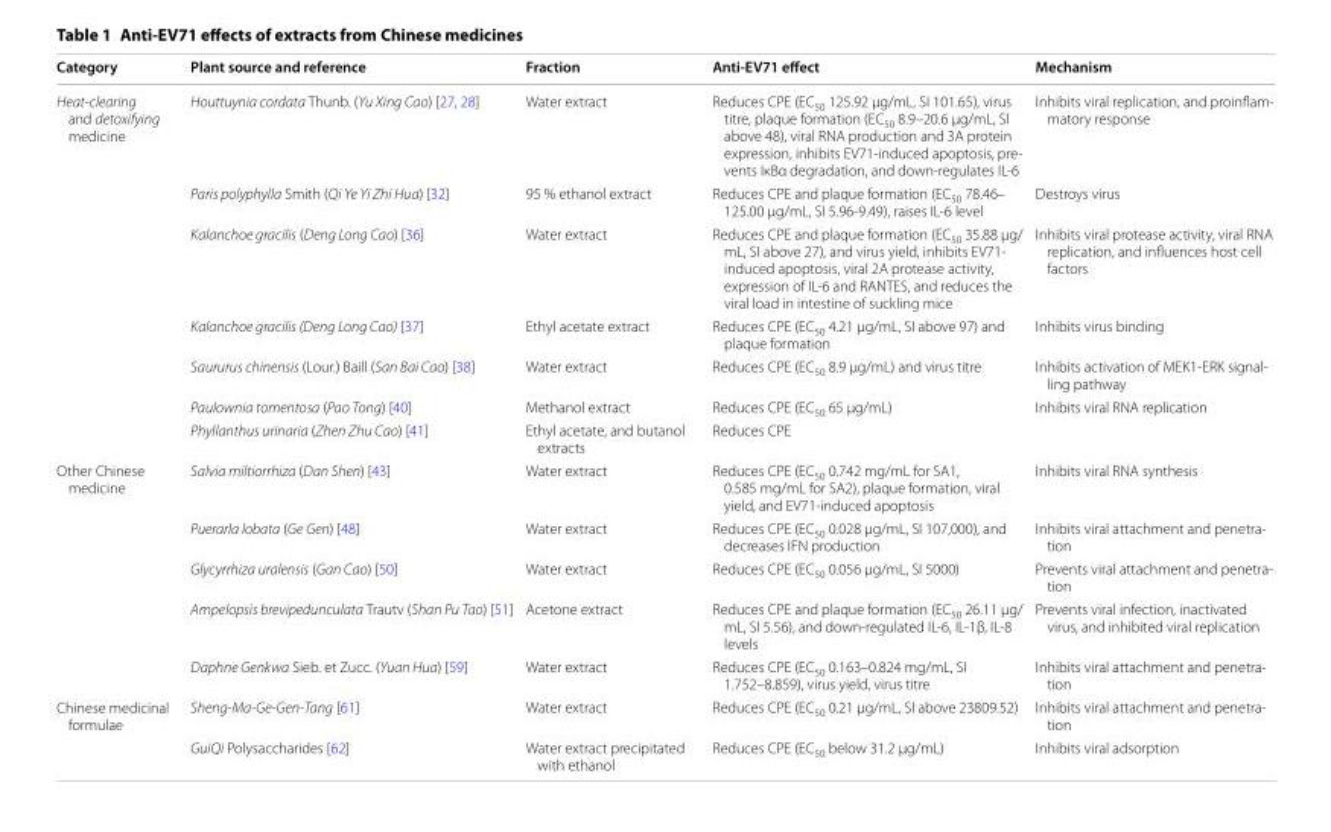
<table><thead><tr><td>Category</td><td>Plant source and reference</td><td>Fraction</td><td>Anti‑EV71 effect</td><td>Mechanism</td></tr></thead><tbody><tr><td rowspan="7">Heat-clearing and detoxifying medicine</td><td>Houttuynia cordata Thunb. (Yu Xing Cao) [27, 28]</td><td>Water extract</td><td>Reduces CPE (EC50 125.92 μg/mL, SI 101.65), virus titre, plaque formation (EC50 8.9–20.6 μg/mL, SI above 48), viral RNA production and 3A protein expression, inhibits EV71-induced apoptosis, pre- vents IκBα degradation, and down-regulates IL-6</td><td>Inhibits viral replication, and proinflam- matory response</td></tr><tr><td>Paris polyphylla Smith (Qi Ye Yi Zhi Hua) [32]</td><td>95 % ethanol extract</td><td>Reduces CPE and plaque formation (EC<sub>50</sub> 78.46– 125.00 μg/mL, SI 5.96-9.49), raises IL-6 level</td><td>Destroys virus</td></tr><tr><td>Kalanchoe gracilis (Deng Long Cao) [36]</td><td>Water extract</td><td>Reduces CPE and plaque formation (EC<sub>50</sub> 35.88 μg/ mL, SI above 27), and virus yield, inhibits EV71- induced apoptosis, viral 2A protease activity, expression of IL-6 and RANTES, and reduces the viral load in intestine of suckling mice</td><td>Inhibits viral protease activity, viral RNA replication, and influences host cell factors</td></tr><tr><td>Kalanchoe gracilis (Deng Long Cao) [37]</td><td>Ethyl acetate extract</td><td>Reduces CPE (EC<sub>50</sub> 4.21 μg/mL, SI above 97) and plaque formation</td><td>Inhibits virus binding</td></tr><tr><td>Saururus chinensis (Lour.) Baill (San Bai Cao) [38]</td><td>Water extract</td><td>Reduces CPE (EC<sub>50</sub> 8.9 μg/mL) and virus titre</td><td>Inhibits activation of MEK1-ERK signal- ling pathway</td></tr><tr><td>Paulownia tomentosa (Pao Tong) [40]</td><td>Methanol extract</td><td>Reduces CPE (EC<sub>50</sub> 65 μg/mL)</td><td>Inhibits viral RNA replication</td></tr><tr><td>Phyllanthus urinaria (Zhen Zhu Cao) [41]</td><td>Ethyl acetate, and butanol extracts</td><td>Reduces CPE</td><td></td></tr><tr><td rowspan="5">Other Chinese medicine</td><td>Salvia miltiorrhiza (Dan Shen) [43]</td><td>Water extract</td><td>Reduces CPE (EC<sub>50</sub> 0.742 mg/mL for SA1, 0.585 mg/mL for SA2), plaque formation, viral yield, and EV71-induced apoptosis</td><td>Inhibits viral RNA synthesis</td></tr><tr><td>Puerarla lobata (Ge Gen) [48]</td><td>Water extract</td><td>Reduces CPE (EC<sub>50</sub> 0.028 μg/mL, SI 107,000), and decreases IFN production</td><td>Inhibits viral attachment and penetra- tion</td></tr><tr><td>Glycyrrhiza uralensis (Gan Cao) [50]</td><td>Water extract</td><td>Reduces CPE (EC<sub>50</sub> 0.056 μg/mL, SI 5000)</td><td>Prevents viral attachment and penetra- tion</td></tr><tr><td>Ampelopsis brevipedunculata Trautv (Shan Pu Tao) [51]</td><td>Acetone extract</td><td>Reduces CPE and plaque formation (EC<sub>50</sub> 26.11 μg/ mL, SI 5.56), and down-regulated IL-6, IL-1β, IL-8 levels</td><td>Prevents viral infection, inactivated virus, and inhibited viral replication</td></tr><tr><td>Daphne Genkwa Sieb. et Zucc. (Yuan Hua) [59]</td><td>Water extract</td><td>Reduces CPE (EC<sub>50</sub> 0.163–0.824 mg/mL, SI 1.752–8.859), virus yield, virus titre</td><td>Inhibits viral attachment and penetra- tion</td></tr><tr><td rowspan="2">Chinese medicinal formulae</td><td>Sheng-Ma-Ge-Gen-Tang [61]</td><td>Water extract</td><td>Reduces CPE (EC<sub>50</sub> 0.21 μg/mL, SI above 23809.52)</td><td>Inhibits viral attachment and penetra- tion</td></tr><tr><td>GuiQi Polysaccharides [62]</td><td>Water extract precipitated with ethanol</td><td>Reduces CPE (EC<sub>50</sub> below 31.2 μg/mL)</td><td>Inhibits viral adsorption</td></tr></tbody></table>